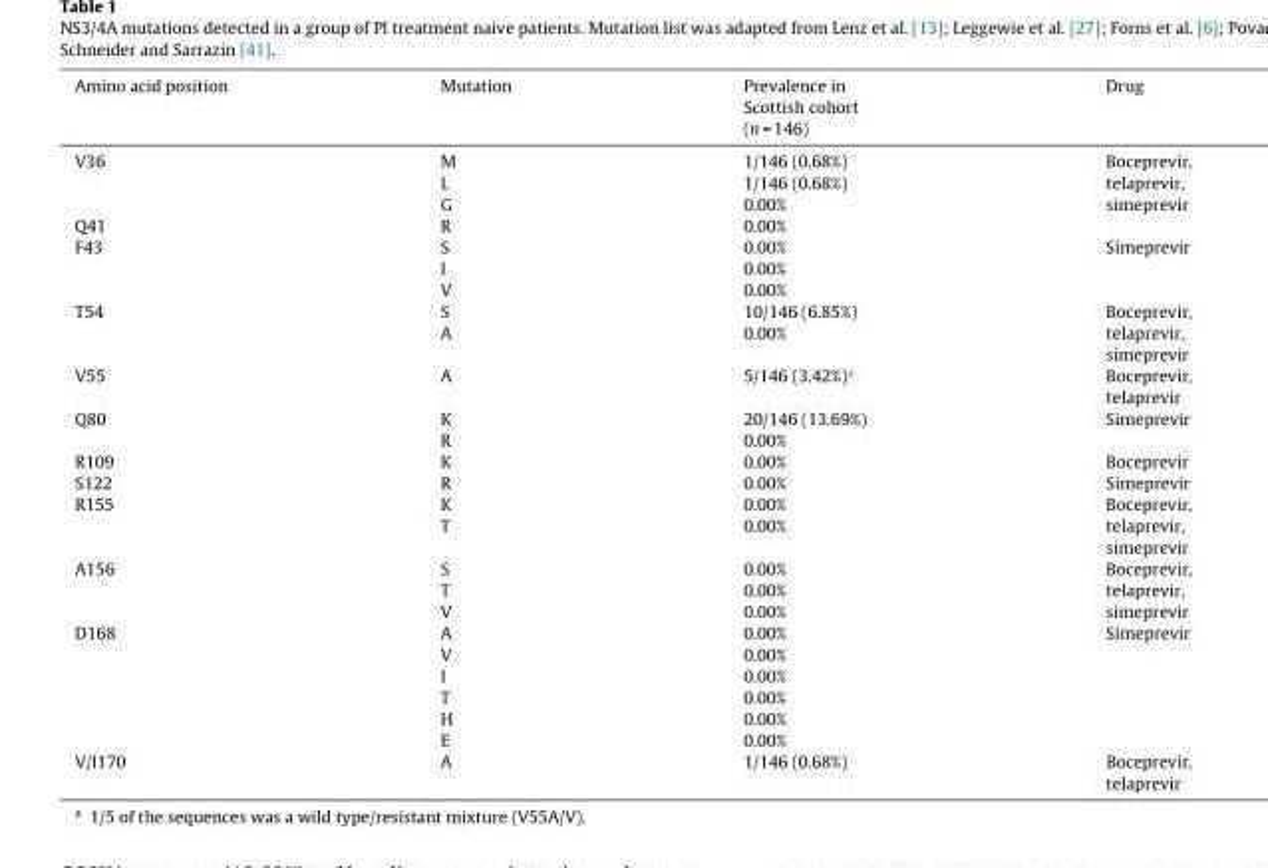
<table><thead><tr><td>Amino acid position</td><td>Mutation</td><td>Prevalence in Scottish cohort (n = 146)</td><td>Drug</td></tr></thead><tbody><tr><td>V36</td><td>M L G</td><td>1/146 (0.68%) 1/146 (0.68%) 0.00%</td><td>Boceprevir, telaprevir, simeprevir</td></tr><tr><td>Q41</td><td>R</td><td>0.00%</td><td></td></tr><tr><td>F43</td><td>S I V</td><td>0.00% 0.00% 0.00%</td><td>Simeprevir</td></tr><tr><td>T54</td><td>S A</td><td>10/146 (6.85%) 0.00%</td><td>Boceprevir, telaprevir, simeprevir</td></tr><tr><td>V55</td><td>A</td><td>5/146 (3.42%)<sup>a</sup></td><td>Boceprevir, telaprevir</td></tr><tr><td>Q80</td><td>K R</td><td>20/146 (13.69%) 0.00%</td><td>Simeprevir</td></tr><tr><td>R109</td><td>K</td><td>0.00%</td><td>Boceprevir</td></tr><tr><td>S122</td><td>R</td><td>0.00%</td><td>Simeprevir</td></tr><tr><td>R155</td><td>K T</td><td>0.00% 0.00%</td><td>Boceprevir, telaprevir, simeprevir</td></tr><tr><td>A156</td><td>S T V</td><td>0.00% 0.00% 0.00%</td><td>Boceprevir, telaprevir, simeprevir</td></tr><tr><td>D168</td><td>A V I T H E</td><td>0.00% 0.00% 0.00% 0.00% 0.00% 0.00%</td><td>Simeprevir</td></tr><tr><td>V/I170</td><td>A</td><td>1/146 (0.68%)</td><td>Boceprevir, telaprevir</td></tr></tbody></table>